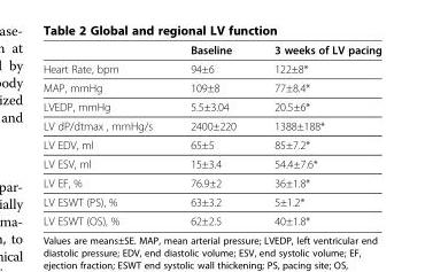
<table><thead><tr><td></td><td>Baseline</td><td>3 weeks of LV pacing</td></tr></thead><tbody><tr><td>Heart Rate, bpm</td><td>94±6</td><td>122±8*</td></tr><tr><td>MAP, mmHg</td><td>109±8</td><td>77±8.4*</td></tr><tr><td>LVEDP, mmHg</td><td>5.5±3.04</td><td>20.5±6*</td></tr><tr><td>LV dP/dtmax , mmHg/s</td><td>2400±220</td><td>1388±188*</td></tr><tr><td>LV EDV, ml</td><td>65±5</td><td>85±7.2*</td></tr><tr><td>LV ESV, ml</td><td>15±3.4</td><td>54.4±7.6*</td></tr><tr><td>LV EF, %</td><td>76.9±2</td><td>36±1.8*</td></tr><tr><td>LV ESWT (PS), %</td><td>63±3.2</td><td>5±1.2*</td></tr><tr><td>LV ESWT (OS), %</td><td>62±2.5</td><td>40±1.8*</td></tr></tbody></table>